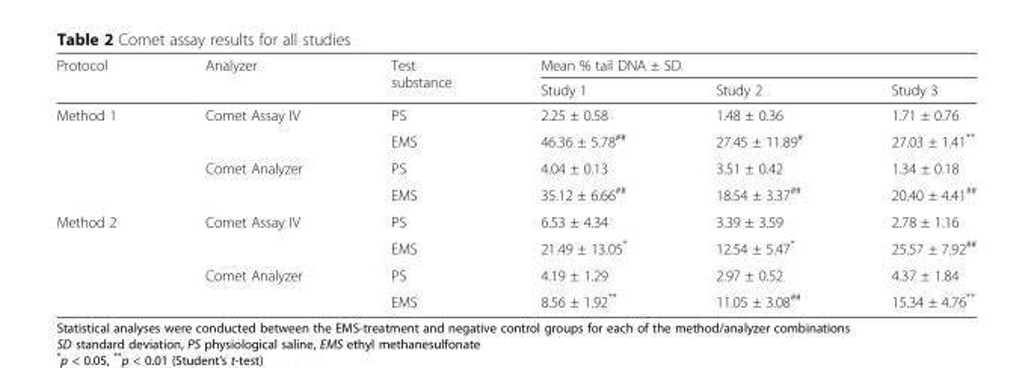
<table><thead><tr><td rowspan="2">Protocol</td><td rowspan="2">Analyzer</td><td rowspan="2">Test substance</td><td colspan="3">Mean % tail DNA ± SD</td></tr><tr><td>Study 1</td><td>Study 2</td><td>Study 3</td></tr></thead><tbody><tr><td rowspan="4">Method 1</td><td rowspan="2">Comet Assay IV</td><td>PS</td><td>2.25 ± 0.58</td><td>1.48 ± 0.36</td><td>1.71 ± 0.76</td></tr><tr><td>EMS</td><td>46.36 ± 5.78<sup>##</sup></td><td>27.45 ± 11.89<sup>#</sup></td><td>27.03 ± 1.41**</td></tr><tr><td rowspan="2">Comet Analyzer</td><td>PS</td><td>4.04 ± 0.13</td><td>3.51 ± 0.42</td><td>1.34 ± 0.18</td></tr><tr><td>EMS</td><td>35.12 ± 6.66<sup>##</sup></td><td>18.54 ± 3.37<sup>##</sup></td><td>20.40 ± 4.41<sup>##</sup></td></tr><tr><td rowspan="4">Method 2</td><td rowspan="2">Comet Assay IV</td><td>PS</td><td>6.53 ± 4.34</td><td>3.39 ± 3.59</td><td>2.78 ± 1.16</td></tr><tr><td>EMS</td><td>21.49 ± 13.05*</td><td>12.54 ± 5.47*</td><td>25.57 ± 7.92<sup>##</sup></td></tr><tr><td rowspan="2">Comet Analyzer</td><td>PS</td><td>4.19 ± 1.29</td><td>2.97 ± 0.52</td><td>4.37 ± 1.84</td></tr><tr><td>EMS</td><td>8.56 ± 1.92**</td><td>11.05 ± 3.08<sup>##</sup></td><td>15.34 ± 4.76**</td></tr></tbody></table>